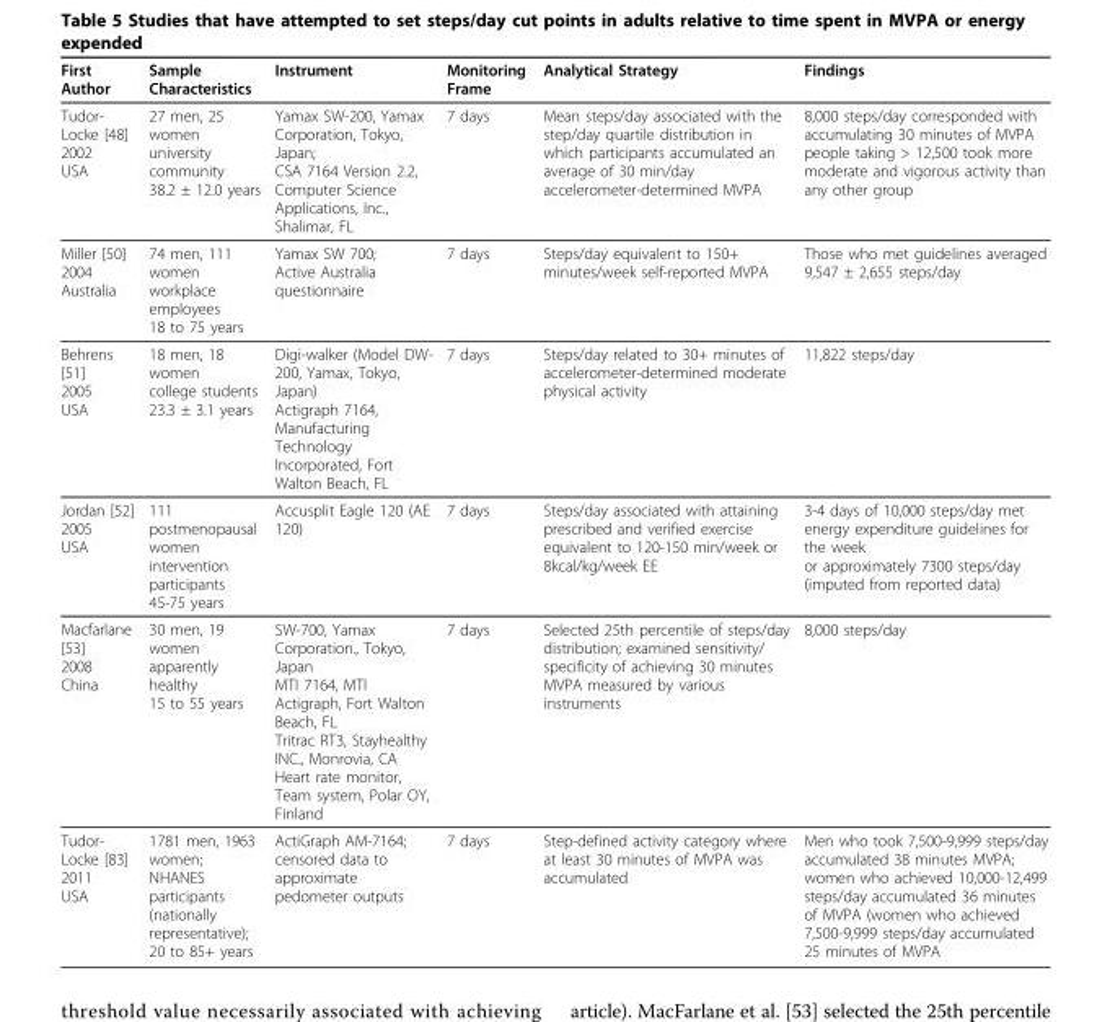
<table><thead><tr><td>First Author</td><td>Sample Characteristics</td><td>Instrument</td><td>Monitoring Frame</td><td>Analytical Strategy</td><td>Findings</td></tr></thead><tbody><tr><td>Tudor- Locke [48] 2002 USA</td><td>27 men, 25 women university community 38.2 ± 12.0 years</td><td>Yamax SW-200, Yamax Corporation, Tokyo, Japan; CSA 7164 Version 2.2, Computer Science Applications, Inc., Shalimar, FL</td><td>7 days</td><td>Mean steps/day associated with the step/day quartile distribution in which participants accumulated an average of 30 min/day accelerometer-determined MVPA</td><td>8,000 steps/day corresponded with accumulating 30 minutes of MVPA people taking &gt; 12,500 took more moderate and vigorous activity than any other group</td></tr><tr><td>Miller [50] 2004 Australia</td><td>74 men, 111 women workplace employees 18 to 75 years</td><td>Yamax SW 700; Active Australia questionnaire</td><td>7 days</td><td>Steps/day equivalent to 150+ minutes/week self-reported MVPA</td><td>Those who met guidelines averaged 9,547 ± 2,655 steps/day</td></tr><tr><td>Behrens [51] 2005 USA</td><td>18 men, 18 women college students 23.3 ± 3.1 years</td><td>Digi-walker (Model DW- 200, Yamax, Tokyo, Japan) Actigraph 7164, Manufacturing Technology Incorporated, Fort Walton Beach, FL</td><td>7 days</td><td>Steps/day related to 30+ minutes of accelerometer-determined moderate physical activity</td><td>11,822 steps/day</td></tr><tr><td>Jordan [52] 2005 USA</td><td>111 postmenopausal women intervention participants 45-75 years</td><td>Accusplit Eagle 120 (AE 120)</td><td>7 days</td><td>Steps/day associated with attaining prescribed and verified exercise equivalent to 120-150 min/week or 8kcal/kg/week EE</td><td>3-4 days of 10,000 steps/day met energy expenditure guidelines for the week or approximately 7300 steps/day (imputed from reported data)</td></tr><tr><td>Macfarlane [53] 2008 China</td><td>30 men, 19 women apparently healthy 15 to 55 years</td><td>SW-700, Yamax Corporation., Tokyo, Japan MTI 7164, MTI Actigraph, Fort Walton Beach, FL Tritrac RT3, Stayhealthy INC., Monrovia, CA Heart rate monitor, Team system, Polar OY, Finland</td><td>7 days</td><td>Selected 25th percentile of steps/day distribution; examined sensitivity/ specificity of achieving 30 minutes MVPA measured by various instruments</td><td>8,000 steps/day</td></tr><tr><td>Tudor- Locke [83] 2011 USA</td><td>1781 men, 1963 women; NHANES participants (nationally representative); 20 to 85+ years</td><td>ActiGraph AM-7164; censored data to approximate pedometer outputs</td><td>7 days</td><td>Step-defined activity category where at least 30 minutes of MVPA was accumulated</td><td>Men who took 7,500-9,999 steps/day accumulated 38 minutes MVPA; women who achieved 10,000-12,499 steps/day accumulated 36 minutes of MVPA (women who achieved 7,500-9,999 steps/day accumulated 25 minutes of MVPA</td></tr></tbody></table>